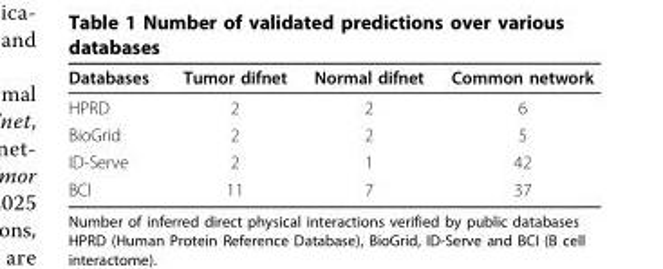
<table><thead><tr><td>Databases</td><td>Tumor difnet</td><td>Normal difnet</td><td>Common network</td></tr></thead><tbody><tr><td>HPRD</td><td>2</td><td>2</td><td>6</td></tr><tr><td>BioGrid</td><td>2</td><td>2</td><td>5</td></tr><tr><td>ID-Serve</td><td>2</td><td>1</td><td>42</td></tr><tr><td>BCI</td><td>11</td><td>7</td><td>37</td></tr></tbody></table>